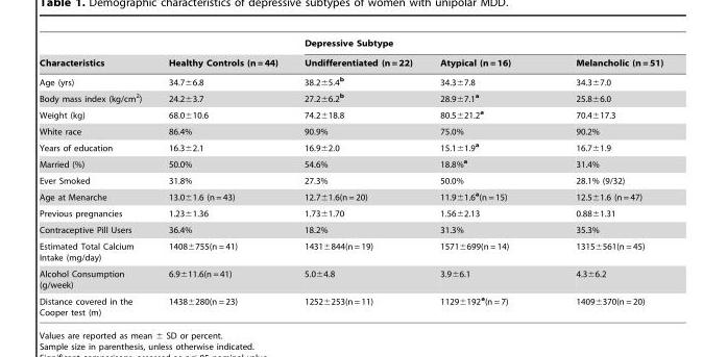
<table><thead><tr><td rowspan="2">Characteristics</td><td rowspan="2">Healthy Controls (n = 44)</td><td colspan="3">Depressive Subtype</td></tr><tr><td>Undifferentiated (n = 22)</td><td>Atypical (n = 16)</td><td>Melancholic (n = 51)</td></tr></thead><tbody><tr><td>Age (yrs)</td><td>34.7±6.8</td><td>38.2±5.4<sup>b</sup></td><td>34.3±7.8</td><td>34.3±7.0</td></tr><tr><td>Body mass index (kg/cm<sup>2</sup>)</td><td>24.2±3.7</td><td>27.2±6.2<sup>b</sup></td><td>28.9±7.1<sup>a</sup></td><td>25.8±6.0</td></tr><tr><td>Weight (kg)</td><td>68.0±10.6</td><td>74.2±18.8</td><td>80.5±21.2<sup>a</sup></td><td>70.4±17.3</td></tr><tr><td>White race</td><td>86.4%</td><td>90.9%</td><td>75.0%</td><td>90.2%</td></tr><tr><td>Years of education</td><td>16.3±2.1</td><td>16.9±2.0</td><td>15.1±1.9<sup>a</sup></td><td>16.7±1.9</td></tr><tr><td>Married (%)</td><td>50.0%</td><td>54.6%</td><td>18.8%<sup>a</sup></td><td>31.4%</td></tr><tr><td>Ever Smoked</td><td>31.8%</td><td>27.3%</td><td>50.0%</td><td>28.1% (9/32)</td></tr><tr><td>Age at Menarche</td><td>13.0±1.6 (n = 43)</td><td>12.7±1.6(n = 20)</td><td>11.9±1.6<sup>a</sup>(n = 15)</td><td>12.5±1.6 (n = 47)</td></tr><tr><td>Previous pregnancies</td><td>1.23±1.36</td><td>1.73±1.70</td><td>1.56±2.13</td><td>0.88±1.31</td></tr><tr><td>Contraceptive Pill Users</td><td>36.4%</td><td>18.2%</td><td>31.3%</td><td>35.3%</td></tr><tr><td>Estimated Total Calcium Intake (mg/day)</td><td>1408±755(n = 41)</td><td>1431±844(n = 19)</td><td>1571±699(n = 14)</td><td>1315±561(n = 45)</td></tr><tr><td>Alcohol Consumption (g/week)</td><td>6.9±11.6(n = 41)</td><td>5.0±4.8</td><td>3.9±6.1</td><td>4.3±6.2</td></tr><tr><td>Distance covered in the Cooper test (m)</td><td>1438±280(n = 23)</td><td>1252±253(n = 11)</td><td>1129±192<sup>a</sup>(n = 7)</td><td>1409±370(n = 20)</td></tr></tbody></table>